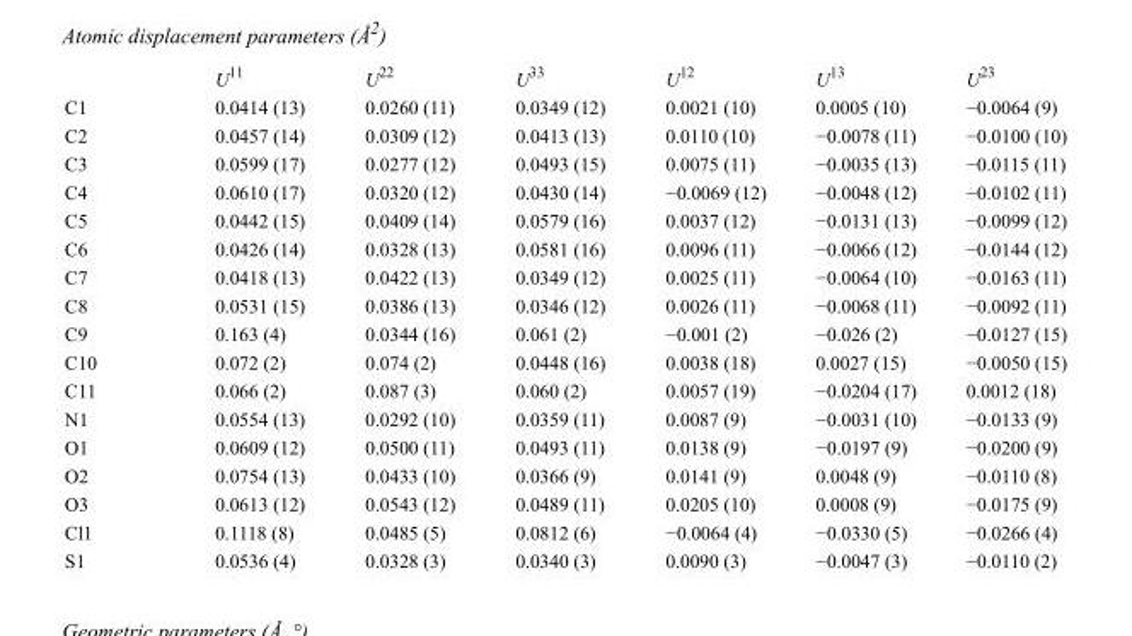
<table><thead><tr><td></td><td>U<sup>11</sup></td><td>U<sup>22</sup></td><td>U<sup>33</sup></td><td>U<sup>12</sup></td><td>U<sup>13</sup></td><td>U<sup>23</sup></td></tr></thead><tbody><tr><td>C1</td><td>0.0414 (13)</td><td>0.0260 (11)</td><td>0.0349 (12)</td><td>0.0021 (10)</td><td>0.0005 (10)</td><td>−0.0064 (9)</td></tr><tr><td>C2</td><td>0.0457 (14)</td><td>0.0309 (12)</td><td>0.0413 (13)</td><td>0.0110 (10)</td><td>−0.0078 (11)</td><td>−0.0100 (10)</td></tr><tr><td>C3</td><td>0.0599 (17)</td><td>0.0277 (12)</td><td>0.0493 (15)</td><td>0.0075 (11)</td><td>−0.0035 (13)</td><td>−0.0115 (11)</td></tr><tr><td>C4</td><td>0.0610 (17)</td><td>0.0320 (12)</td><td>0.0430 (14)</td><td>−0.0069 (12)</td><td>−0.0048 (12)</td><td>−0.0102 (11)</td></tr><tr><td>C5</td><td>0.0442 (15)</td><td>0.0409 (14)</td><td>0.0579 (16)</td><td>0.0037 (12)</td><td>−0.0131 (13)</td><td>−0.0099 (12)</td></tr><tr><td>C6</td><td>0.0426 (14)</td><td>0.0328 (13)</td><td>0.0581 (16)</td><td>0.0096 (11)</td><td>−0.0066 (12)</td><td>−0.0144 (12)</td></tr><tr><td>C7</td><td>0.0418 (13)</td><td>0.0422 (13)</td><td>0.0349 (12)</td><td>0.0025 (11)</td><td>−0.0064 (10)</td><td>−0.0163 (11)</td></tr><tr><td>C8</td><td>0.0531 (15)</td><td>0.0386 (13)</td><td>0.0346 (12)</td><td>0.0026 (11)</td><td>−0.0068 (11)</td><td>−0.0092 (11)</td></tr><tr><td>C9</td><td>0.163 (4)</td><td>0.0344 (16)</td><td>0.061 (2)</td><td>−0.001 (2)</td><td>−0.026 (2)</td><td>−0.0127 (15)</td></tr><tr><td>C10</td><td>0.072 (2)</td><td>0.074 (2)</td><td>0.0448 (16)</td><td>0.0038 (18)</td><td>0.0027 (15)</td><td>−0.0050 (15)</td></tr><tr><td>C11</td><td>0.066 (2)</td><td>0.087 (3)</td><td>0.060 (2)</td><td>0.0057 (19)</td><td>−0.0204 (17)</td><td>0.0012 (18)</td></tr><tr><td>N1</td><td>0.0554 (13)</td><td>0.0292 (10)</td><td>0.0359 (11)</td><td>0.0087 (9)</td><td>−0.0031 (10)</td><td>−0.0133 (9)</td></tr><tr><td>O1</td><td>0.0609 (12)</td><td>0.0500 (11)</td><td>0.0493 (11)</td><td>0.0138 (9)</td><td>−0.0197 (9)</td><td>−0.0200 (9)</td></tr><tr><td>O2</td><td>0.0754 (13)</td><td>0.0433 (10)</td><td>0.0366 (9)</td><td>0.0141 (9)</td><td>0.0048 (9)</td><td>−0.0110 (8)</td></tr><tr><td>O3</td><td>0.0613 (12)</td><td>0.0543 (12)</td><td>0.0489 (11)</td><td>0.0205 (10)</td><td>0.0008 (9)</td><td>−0.0175 (9)</td></tr><tr><td>Cl1</td><td>0.1118 (8)</td><td>0.0485 (5)</td><td>0.0812 (6)</td><td>−0.0064 (4)</td><td>−0.0330 (5)</td><td>−0.0266 (4)</td></tr><tr><td>S1</td><td>0.0536 (4)</td><td>0.0328 (3)</td><td>0.0340 (3)</td><td>0.0090 (3)</td><td>−0.0047 (3)</td><td>−0.0110 (2)</td></tr></tbody></table>